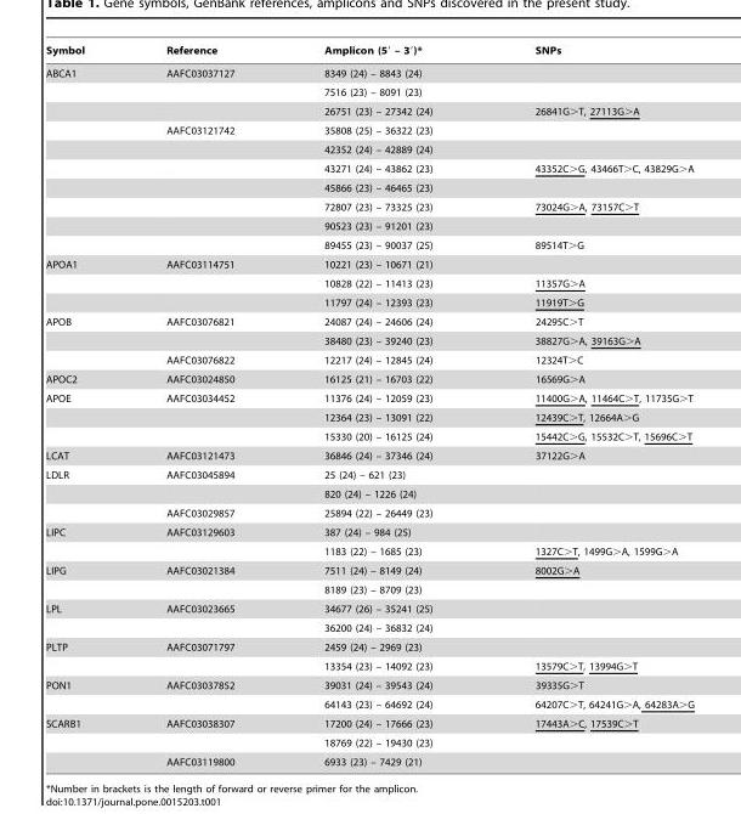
<table><thead><tr><td>Symbol</td><td>Reference</td><td>Amplicon (5′ – 3′)*</td><td>SNPs</td></tr></thead><tbody><tr><td rowspan="10">ABCA1</td><td>AAFC03037127</td><td>8349 (24) – 8843 (24)</td><td></td></tr><tr><td></td><td>7516 (23) – 8091 (23)</td><td></td></tr><tr><td></td><td>26751 (23) – 27342 (24)</td><td>26841G&gt;T, 27113G&gt;A</td></tr><tr><td>AAFC03121742</td><td>35808 (25) – 36322 (23)</td><td></td></tr><tr><td></td><td>42352 (24) – 42889 (24)</td><td></td></tr><tr><td></td><td>43271 (24) – 43862 (23)</td><td>43352C&gt;G, 43466T&gt;C, 43829G&gt;A</td></tr><tr><td></td><td>45866 (23) – 46465 (23)</td><td></td></tr><tr><td></td><td>72807 (23) – 73325 (23)</td><td>73024G&gt;A, 73157C&gt;T</td></tr><tr><td></td><td>90523 (23) – 91201 (23)</td><td></td></tr><tr><td></td><td>89455 (23) – 90037 (25)</td><td>89514T&gt;G</td></tr><tr><td rowspan="3">APOA1</td><td>AAFC03114751</td><td>10221 (23) – 10671 (21)</td><td></td></tr><tr><td></td><td>10828 (22) – 11413 (23)</td><td>11357G&gt;A</td></tr><tr><td></td><td>11797 (24) – 12393 (23)</td><td>11919T&gt;G</td></tr><tr><td rowspan="3">APOB</td><td>AAFC03076821</td><td>24087 (24) – 24606 (24)</td><td>24295C&gt;T</td></tr><tr><td></td><td>38480 (23) – 39240 (23)</td><td>38827G&gt;A, 39163G&gt;A</td></tr><tr><td>AAFC03076822</td><td>12217 (24) – 12845 (24)</td><td>12324T&gt;C</td></tr><tr><td>APOC2</td><td>AAFC03024850</td><td>16125 (21) – 16703 (22)</td><td>16569G&gt;A</td></tr><tr><td rowspan="3">APOE</td><td>AAFC03034452</td><td>11376 (24) – 12059 (23)</td><td>11400G&gt;A, 11464C&gt;T, 11735G&gt;T</td></tr><tr><td></td><td>12364 (23) – 13091 (22)</td><td>12439C&gt;T, 12664A&gt;G</td></tr><tr><td></td><td>15330 (20) – 16125 (24)</td><td>15442C&gt;G, 15532C&gt;T, 15696C&gt;T</td></tr><tr><td>LCAT</td><td>AAFC03121473</td><td>36846 (24) – 37346 (24)</td><td>37122G&gt;A</td></tr><tr><td rowspan="3">LDLR</td><td>AAFC03045894</td><td>25 (24) – 621 (23)</td><td></td></tr><tr><td></td><td>820 (24) – 1226 (24)</td><td></td></tr><tr><td>AAFC03029857</td><td>25894 (22) – 26449 (23)</td><td></td></tr><tr><td rowspan="2">LIPC</td><td>AAFC03129603</td><td>387 (24) – 984 (25)</td><td></td></tr><tr><td></td><td>1183 (22) – 1685 (23)</td><td>1327C&gt;T, 1499G&gt;A, 1599G&gt;A</td></tr><tr><td rowspan="2">LIPG</td><td>AAFC03021384</td><td>7511 (24) – 8149 (24)</td><td>8002G&gt;A</td></tr><tr><td></td><td>8189 (23) – 8709 (23)</td><td></td></tr><tr><td rowspan="2">LPL</td><td>AAFC03023665</td><td>34677 (26) – 35241 (25)</td><td></td></tr><tr><td></td><td>36200 (24) – 36832 (24)</td><td></td></tr><tr><td rowspan="2">PLTP</td><td>AAFC03071797</td><td>2459 (24) – 2969 (23)</td><td></td></tr><tr><td></td><td>13354 (23) – 14092 (23)</td><td>13579C&gt;T, 13994G&gt;T</td></tr><tr><td rowspan="2">PON1</td><td>AAFC03037852</td><td>39031 (24) – 39543 (24)</td><td>39335G&gt;T</td></tr><tr><td></td><td>64143 (23) – 64692 (24)</td><td>64207C&gt;T, 64241G&gt;A, 64283A&gt;G</td></tr><tr><td rowspan="3">SCARB1</td><td>AAFC03038307</td><td>17200 (24) – 17666 (23)</td><td>17443A&gt;C, 17539C&gt;T</td></tr><tr><td></td><td>18769 (22) – 19430 (23)</td><td></td></tr><tr><td>AAFC03119800</td><td>6933 (23) – 7429 (21)</td><td></td></tr></tbody></table>